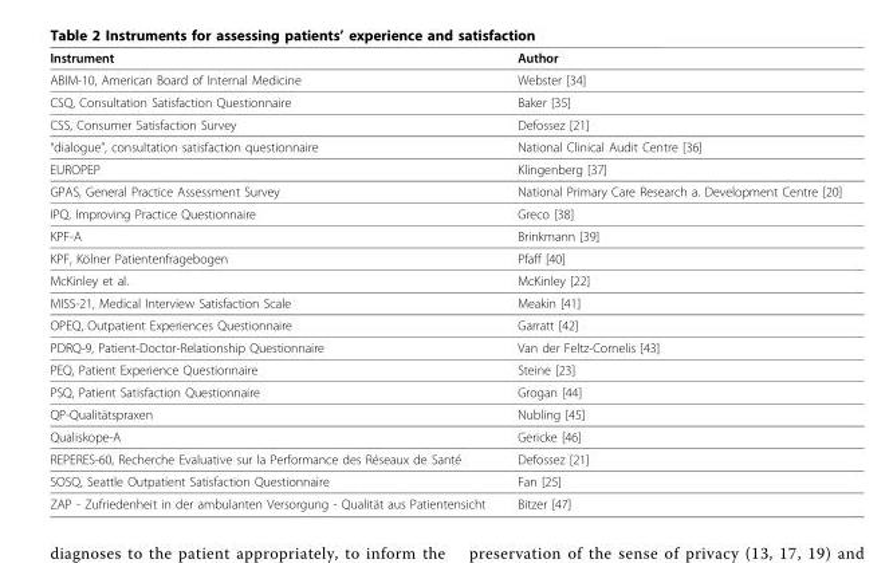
<table><thead><tr><td>Instrument</td><td>Author</td></tr></thead><tbody><tr><td>ABIM-10, American Board of Internal Medicine</td><td>Webster [34]</td></tr><tr><td>CSQ, Consultation Satisfaction Questionnaire</td><td>Baker [35]</td></tr><tr><td>CSS, Consumer Satisfaction Survey</td><td>Defossez [21]</td></tr><tr><td>“dialogue”, consultation satisfaction questionnaire</td><td>National Clinical Audit Centre [36]</td></tr><tr><td>EUROPEP</td><td>Klingenberg [37]</td></tr><tr><td>GPAS, General Practice Assessment Survey</td><td>National Primary Care Research a. Development Centre [20]</td></tr><tr><td>IPQ, Improving Practice Questionnaire</td><td>Greco [38]</td></tr><tr><td>KPF-A</td><td>Brinkmann [39]</td></tr><tr><td>KPF, Kölner Patientenfragebogen</td><td>Pfaff [40]</td></tr><tr><td>McKinley et al.</td><td>McKinley [22]</td></tr><tr><td>MISS-21, Medical Interview Satisfaction Scale</td><td>Meakin [41]</td></tr><tr><td>OPEQ, Outpatient Experiences Questionnaire</td><td>Garratt [42]</td></tr><tr><td>PDRQ-9, Patient-Doctor-Relationship Questionnaire</td><td>Van der Feltz-Cornelis [43]</td></tr><tr><td>PEQ, Patient Experience Questionnaire</td><td>Steine [23]</td></tr><tr><td>PSQ, Patient Satisfaction Questionnaire</td><td>Grogan [44]</td></tr><tr><td>QP-Qualitätspraxen</td><td>Nubling [45]</td></tr><tr><td>Qualiskope-A</td><td>Gericke [46]</td></tr><tr><td>REPERES-60, Recherche Evaluative sur la Performance des Réseaux de Santé</td><td>Defossez [21]</td></tr><tr><td>SOSQ, Seattle Outpatient Satisfaction Questionnaire</td><td>Fan [25]</td></tr><tr><td>ZAP - Zufriedenheit in der ambulanten Versorgung - Qualität aus Patientensicht</td><td>Bitzer [47]</td></tr></tbody></table>